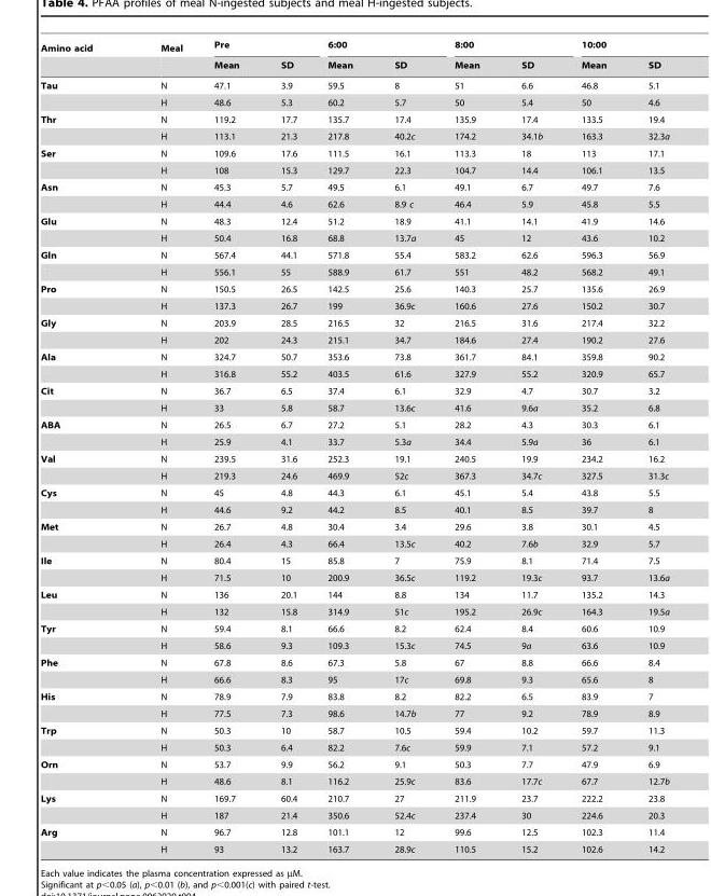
<table><thead><tr><td rowspan="2">Amino acid</td><td rowspan="2">Meal</td><td colspan="2">Pre</td><td colspan="2">6:00</td><td colspan="2">8:00</td><td colspan="2">10:00</td></tr><tr><td>Mean</td><td>SD</td><td>Mean</td><td>SD</td><td>Mean</td><td>SD</td><td>Mean</td><td>SD</td></tr></thead><tbody><tr><td rowspan="2">Tau</td><td>N</td><td>47.1</td><td>3.9</td><td>59.5</td><td>8</td><td>51</td><td>6.6</td><td>46.8</td><td>5.1</td></tr><tr><td>H</td><td>48.6</td><td>5.3</td><td>60.2</td><td>5.7</td><td>50</td><td>5.4</td><td>50</td><td>4.6</td></tr><tr><td rowspan="2">Thr</td><td>N</td><td>119.2</td><td>17.7</td><td>135.7</td><td>17.4</td><td>135.9</td><td>17.4</td><td>133.5</td><td>19.4</td></tr><tr><td>H</td><td>113.1</td><td>21.3</td><td>217.8</td><td>40.2c</td><td>174.2</td><td>34.1b</td><td>163.3</td><td>32.3a</td></tr><tr><td rowspan="2">Ser</td><td>N</td><td>109.6</td><td>17.6</td><td>111.5</td><td>16.1</td><td>113.3</td><td>18</td><td>113</td><td>17.1</td></tr><tr><td>H</td><td>108</td><td>15.3</td><td>129.7</td><td>22.3</td><td>104.7</td><td>14.4</td><td>106.1</td><td>13.5</td></tr><tr><td rowspan="2">Asn</td><td>N</td><td>45.3</td><td>5.7</td><td>49.5</td><td>6.1</td><td>49.1</td><td>6.7</td><td>49.7</td><td>7.6</td></tr><tr><td>H</td><td>44.4</td><td>4.6</td><td>62.6</td><td>8.9 c</td><td>46.4</td><td>5.9</td><td>45.8</td><td>5.5</td></tr><tr><td rowspan="2">Glu</td><td>N</td><td>48.3</td><td>12.4</td><td>51.2</td><td>18.9</td><td>41.1</td><td>14.1</td><td>41.9</td><td>14.6</td></tr><tr><td>H</td><td>50.4</td><td>16.8</td><td>68.8</td><td>13.7a</td><td>45</td><td>12</td><td>43.6</td><td>10.2</td></tr><tr><td rowspan="2">Gln</td><td>N</td><td>567.4</td><td>44.1</td><td>571.8</td><td>55.4</td><td>583.2</td><td>62.6</td><td>596.3</td><td>56.9</td></tr><tr><td>H</td><td>556.1</td><td>55</td><td>588.9</td><td>61.7</td><td>551</td><td>48.2</td><td>568.2</td><td>49.1</td></tr><tr><td rowspan="2">Pro</td><td>N</td><td>150.5</td><td>26.5</td><td>142.5</td><td>25.6</td><td>140.3</td><td>25.7</td><td>135.6</td><td>26.9</td></tr><tr><td>H</td><td>137.3</td><td>26.7</td><td>199</td><td>36.9c</td><td>160.6</td><td>27.6</td><td>150.2</td><td>30.7</td></tr><tr><td rowspan="2">Gly</td><td>N</td><td>203.9</td><td>28.5</td><td>216.5</td><td>32</td><td>216.5</td><td>31.6</td><td>217.4</td><td>32.2</td></tr><tr><td>H</td><td>202</td><td>24.3</td><td>215.1</td><td>34.7</td><td>184.6</td><td>27.4</td><td>190.2</td><td>27.6</td></tr><tr><td rowspan="2">Ala</td><td>N</td><td>324.7</td><td>50.7</td><td>353.6</td><td>73.8</td><td>361.7</td><td>84.1</td><td>359.8</td><td>90.2</td></tr><tr><td>H</td><td>316.8</td><td>55.2</td><td>403.5</td><td>61.6</td><td>327.9</td><td>55.2</td><td>320.9</td><td>65.7</td></tr><tr><td rowspan="2">Cit</td><td>N</td><td>36.7</td><td>6.5</td><td>37.4</td><td>6.1</td><td>32.9</td><td>4.7</td><td>30.7</td><td>3.2</td></tr><tr><td>H</td><td>33</td><td>5.8</td><td>58.7</td><td>13.6c</td><td>41.6</td><td>9.6a</td><td>35.2</td><td>6.8</td></tr><tr><td rowspan="2">ABA</td><td>N</td><td>26.5</td><td>6.7</td><td>27.2</td><td>5.1</td><td>28.2</td><td>4.3</td><td>30.3</td><td>6.1</td></tr><tr><td>H</td><td>25.9</td><td>4.1</td><td>33.7</td><td>5.3a</td><td>34.4</td><td>5.9a</td><td>36</td><td>6.1</td></tr><tr><td rowspan="2">Val</td><td>N</td><td>239.5</td><td>31.6</td><td>252.3</td><td>19.1</td><td>240.5</td><td>19.9</td><td>234.2</td><td>16.2</td></tr><tr><td>H</td><td>219.3</td><td>24.6</td><td>469.9</td><td>52c</td><td>367.3</td><td>34.7c</td><td>327.5</td><td>31.3c</td></tr><tr><td rowspan="2">Cys</td><td>N</td><td>45</td><td>4.8</td><td>44.3</td><td>6.1</td><td>45.1</td><td>5.4</td><td>43.8</td><td>5.5</td></tr><tr><td>H</td><td>44.6</td><td>9.2</td><td>44.2</td><td>8.5</td><td>40.1</td><td>8.5</td><td>39.7</td><td>8</td></tr><tr><td rowspan="2">Met</td><td>N</td><td>26.7</td><td>4.8</td><td>30.4</td><td>3.4</td><td>29.6</td><td>3.8</td><td>30.1</td><td>4.5</td></tr><tr><td>H</td><td>26.4</td><td>4.3</td><td>66.4</td><td>13.5c</td><td>40.2</td><td>7.6b</td><td>32.9</td><td>5.7</td></tr><tr><td rowspan="2">Ile</td><td>N</td><td>80.4</td><td>15</td><td>85.8</td><td>7</td><td>75.9</td><td>8.1</td><td>71.4</td><td>7.5</td></tr><tr><td>H</td><td>71.5</td><td>10</td><td>200.9</td><td>36.5c</td><td>119.2</td><td>19.3c</td><td>93.7</td><td>13.6a</td></tr><tr><td rowspan="2">Leu</td><td>N</td><td>136</td><td>20.1</td><td>144</td><td>8.8</td><td>134</td><td>11.7</td><td>135.2</td><td>14.3</td></tr><tr><td>H</td><td>132</td><td>15.8</td><td>314.9</td><td>51c</td><td>195.2</td><td>26.9c</td><td>164.3</td><td>19.5a</td></tr><tr><td rowspan="2">Tyr</td><td>N</td><td>59.4</td><td>8.1</td><td>66.6</td><td>8.2</td><td>62.4</td><td>8.4</td><td>60.6</td><td>10.9</td></tr><tr><td>H</td><td>58.6</td><td>9.3</td><td>109.3</td><td>15.3c</td><td>74.5</td><td>9a</td><td>63.6</td><td>10.9</td></tr><tr><td rowspan="2">Phe</td><td>N</td><td>67.8</td><td>8.6</td><td>67.3</td><td>5.8</td><td>67</td><td>8.8</td><td>66.6</td><td>8.4</td></tr><tr><td>H</td><td>66.6</td><td>8.3</td><td>95</td><td>17c</td><td>69.8</td><td>9.3</td><td>65.6</td><td>8</td></tr><tr><td rowspan="2">His</td><td>N</td><td>78.9</td><td>7.9</td><td>83.8</td><td>8.2</td><td>82.2</td><td>6.5</td><td>83.9</td><td>7</td></tr><tr><td>H</td><td>77.5</td><td>7.3</td><td>98.6</td><td>14.7b</td><td>77</td><td>9.2</td><td>78.9</td><td>8.9</td></tr><tr><td rowspan="2">Trp</td><td>N</td><td>50.3</td><td>10</td><td>58.7</td><td>10.5</td><td>59.4</td><td>10.2</td><td>59.7</td><td>11.3</td></tr><tr><td>H</td><td>50.3</td><td>6.4</td><td>82.2</td><td>7.6c</td><td>59.9</td><td>7.1</td><td>57.2</td><td>9.1</td></tr><tr><td rowspan="2">Orn</td><td>N</td><td>53.7</td><td>9.9</td><td>56.2</td><td>9.1</td><td>50.3</td><td>7.7</td><td>47.9</td><td>6.9</td></tr><tr><td>H</td><td>48.6</td><td>8.1</td><td>116.2</td><td>25.9c</td><td>83.6</td><td>17.7c</td><td>67.7</td><td>12.7b</td></tr><tr><td rowspan="2">Lys</td><td>N</td><td>169.7</td><td>60.4</td><td>210.7</td><td>27</td><td>211.9</td><td>23.7</td><td>222.2</td><td>23.8</td></tr><tr><td>H</td><td>187</td><td>21.4</td><td>350.6</td><td>52.4c</td><td>237.4</td><td>30</td><td>224.6</td><td>20.3</td></tr><tr><td rowspan="2">Arg</td><td>N</td><td>96.7</td><td>12.8</td><td>101.1</td><td>12</td><td>99.6</td><td>12.5</td><td>102.3</td><td>11.4</td></tr><tr><td>H</td><td>93</td><td>13.2</td><td>163.7</td><td>28.9c</td><td>110.5</td><td>15.2</td><td>102.6</td><td>14.2</td></tr></tbody></table>